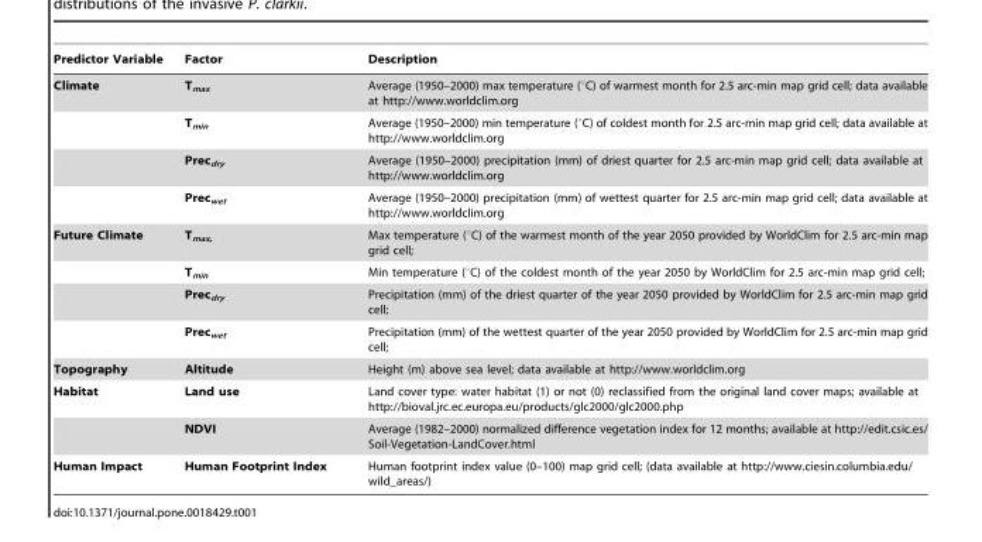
<table><thead><tr><td>Predictor Variable</td><td>Factor</td><td>Description</td></tr></thead><tbody><tr><td rowspan="4">Climate</td><td>T<sub>max</sub></td><td>Average (1950–2000) max temperature (°C) of warmest month for 2.5 arc-min map grid cell; data available at http://www.worldclim.org</td></tr><tr><td>T<sub>min</sub></td><td>Average (1950–2000) min temperature (°C) of coldest month for 2.5 arc-min map grid cell; data available at http://www.worldclim.org</td></tr><tr><td>Prec<sub>dry</sub></td><td>Average (1950–2000) precipitation (mm) of driest quarter for 2.5 arc-min map grid cell; data available at http://www.worldclim.org</td></tr><tr><td>Prec<sub>wet</sub></td><td>Average (1950–2000) precipitation (mm) of wettest quarter for 2.5 arc-min map grid cell; data available at http://www.worldclim.org</td></tr><tr><td rowspan="4">Future Climate</td><td>T<sub>max,</sub></td><td>Max temperature (°C) of the warmest month of the year 2050 provided by WorldClim for 2.5 arc-min map grid cell;</td></tr><tr><td>T<sub>min</sub></td><td>Min temperature (°C) of the coldest month of the year 2050 by WorldClim for 2.5 arc-min map grid cell;</td></tr><tr><td>Prec<sub>dry</sub></td><td>Precipitation (mm) of the driest quarter of the year 2050 provided by WorldClim for 2.5 arc-min map grid cell;</td></tr><tr><td>Prec<sub>wet</sub></td><td>Precipitation (mm) of the wettest quarter of the year 2050 provided by WorldClim for 2.5 arc-min map grid cell;</td></tr><tr><td>Topography</td><td>Altitude</td><td>Height (m) above sea level; data available at http://www.worldclim.org</td></tr><tr><td rowspan="2">Habitat</td><td>Land use</td><td>Land cover type: water habitat (1) or not (0) reclassified from the original land cover maps; available at http://bioval.jrc.ec.europa.eu/products/glc2000/glc2000.php</td></tr><tr><td>NDVI</td><td>Average (1982–2000) normalized difference vegetation index for 12 months; available at http://edit.csic.es/ Soil-Vegetation-LandCover.html</td></tr><tr><td>Human Impact</td><td>Human Footprint Index</td><td>Human footprint index value (0–100) map grid cell; (data available at http://www.ciesin.columbia.edu/ wild_areas/)</td></tr></tbody></table>